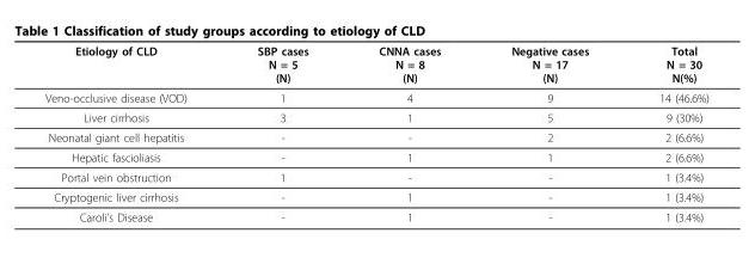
<table><thead><tr><td>Etiology of CLD</td><td>SBP cases N = 5 (N)</td><td>CNNA cases N = 8 (N)</td><td>Negative cases N = 17 (N)</td><td>Total N = 30 N(%)</td></tr></thead><tbody><tr><td>Veno-occlusive disease (VOD)</td><td>1</td><td>4</td><td>9</td><td>14 (46.6%)</td></tr><tr><td>Liver cirrhosis</td><td>3</td><td>1</td><td>5</td><td>9 (30%)</td></tr><tr><td>Neonatal giant cell hepatitis</td><td>-</td><td>-</td><td>2</td><td>2 (6.6%)</td></tr><tr><td>Hepatic fascioliasis</td><td>-</td><td>1</td><td>1</td><td>2 (6.6%)</td></tr><tr><td>Portal vein obstruction</td><td>1</td><td>-</td><td>-</td><td>1 (3.4%)</td></tr><tr><td>Cryptogenic liver cirrhosis</td><td>-</td><td>1</td><td>-</td><td>1 (3.4%)</td></tr><tr><td>Caroli’s Disease</td><td>-</td><td>1</td><td>-</td><td>1 (3.4%)</td></tr></tbody></table>